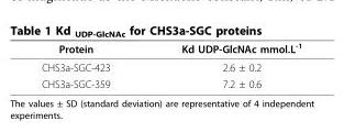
<table><thead><tr><td>Protein</td><td>Kd UDP-GlcNAc mmol.L<sup>-1</sup></td></tr></thead><tbody><tr><td>CHS3a-SGC-423</td><td>2.6 ± 0.2</td></tr><tr><td>CHS3a-SGC-359</td><td>7.2 ± 0.6</td></tr></tbody></table>